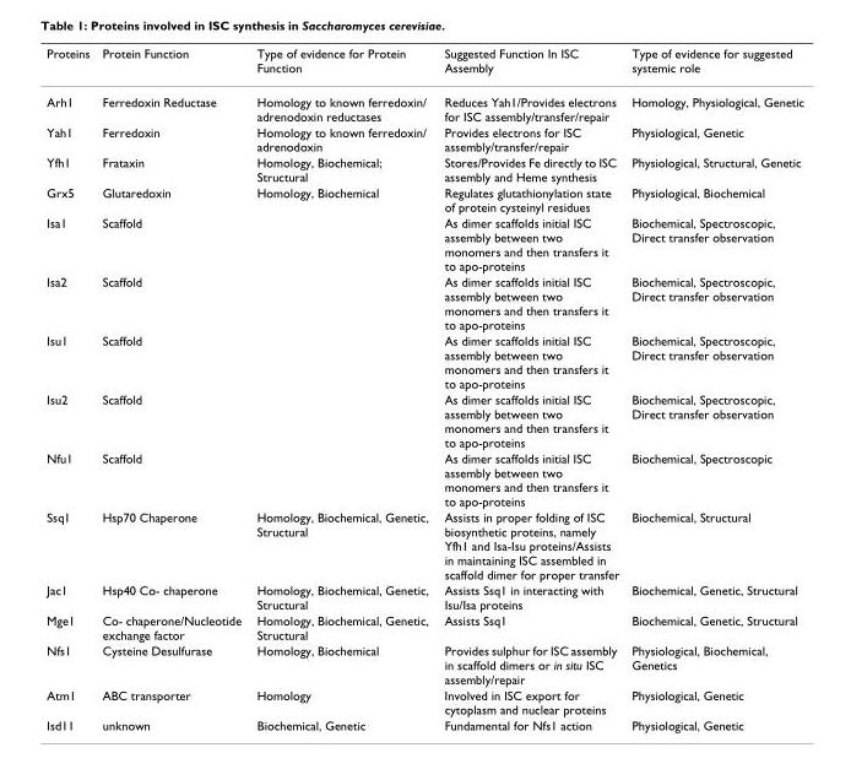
<table><thead><tr><td>Proteins</td><td>Protein Function</td><td>Type of evidence for Protein Function</td><td>Suggested Function In ISC Assembly</td><td>Type of evidence for suggested systemic role</td></tr></thead><tbody><tr><td>Arh1</td><td>Ferredoxin Reductase</td><td>Homology to known ferredoxin/ adrenodoxin reductases</td><td>Reduces Yah1/Provides electrons for ISC assembly/transfer/repair</td><td>Homology, Physiological, Genetic</td></tr><tr><td>Yah1</td><td>Ferredoxin</td><td>Homology to known ferredoxin/ adrenodoxin</td><td>Provides electrons for ISC assembly/transfer/repair</td><td>Physiological, Genetic</td></tr><tr><td>Yfh1</td><td>Frataxin</td><td>Homology, Biochemical; Structural</td><td>Stores/Provides Fe directly to ISC assembly and Heme synthesis</td><td>Physiological, Structural, Genetic</td></tr><tr><td>Grx5</td><td>Glutaredoxin</td><td>Homology, Biochemical</td><td>Regulates glutathionylation state of protein cysteinyl residues</td><td>Physiological, Biochemical</td></tr><tr><td>Isa1</td><td>Scaffold</td><td></td><td>As dimer scaffolds initial ISC assembly between two monomers and then transfers it to apo-proteins</td><td>Biochemical, Spectroscopic, Direct transfer observation</td></tr><tr><td>Isa2</td><td>Scaffold</td><td></td><td>As dimer scaffolds initial ISC assembly between two monomers and then transfers it to apo-proteins</td><td>Biochemical, Spectroscopic, Direct transfer observation</td></tr><tr><td>Isu1</td><td>Scaffold</td><td></td><td>As dimer scaffolds initial ISC assembly between two monomers and then transfers it to apo-proteins</td><td>Biochemical, Spectroscopic, Direct transfer observation</td></tr><tr><td>Isu2</td><td>Scaffold</td><td></td><td>As dimer scaffolds initial ISC assembly between two monomers and then transfers it to apo-proteins</td><td>Biochemical, Spectroscopic, Direct transfer observation</td></tr><tr><td>Nfu1</td><td>Scaffold</td><td></td><td>As dimer scaffolds initial ISC assembly between two monomers and then transfers it to apo-proteins</td><td>Biochemical, Spectroscopic</td></tr><tr><td>Ssq1</td><td>Hsp70 Chaperone</td><td>Homology, Biochemical, Genetic, Structural</td><td>Assists in proper folding of ISC biosynthetic proteins, namely Yfh1 and Isa-Isu proteins/Assists in maintaining ISC assembled in scaffold dimer for proper transfer</td><td>Biochemical, Structural</td></tr><tr><td>Jac1</td><td>Hsp40 Co- chaperone</td><td>Homology, Biochemical, Genetic, Structural</td><td>Assists Ssq1 in interacting with Isu/Isa proteins</td><td>Biochemical, Genetic, Structural</td></tr><tr><td>Mge1</td><td>Co- chaperone/Nucleotide exchange factor</td><td>Homology, Biochemical, Genetic, Structural</td><td>Assists Ssq1</td><td>Biochemical, Genetic, Structural</td></tr><tr><td>Nfs1</td><td>Cysteine Desulfurase</td><td>Homology, Biochemical</td><td>Provides sulphur for ISC assembly in scaffold dimers or in situ ISC assembly/repair</td><td>Physiological, Biochemical, Genetics</td></tr><tr><td>Atm1</td><td>ABC transporter</td><td>Homology</td><td>Involved in ISC export for cytoplasm and nuclear proteins</td><td>Physiological, Genetic</td></tr><tr><td>Isd11</td><td>unknown</td><td>Biochemical, Genetic</td><td>Fundamental for Nfs1 action</td><td>Physiological, Genetic</td></tr></tbody></table>